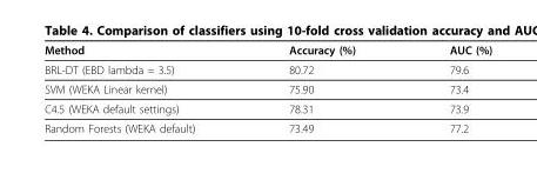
<table><thead><tr><td>Method</td><td>Accuracy (%)</td><td>AUC (%)</td></tr></thead><tbody><tr><td>BRL-DT (EBD lambda = 3.5)</td><td>80.72</td><td>79.6</td></tr><tr><td>SVM (WEKA Linear kernel)</td><td>75.90</td><td>73.4</td></tr><tr><td>C4.5 (WEKA default settings)</td><td>78.31</td><td>73.9</td></tr><tr><td>Random Forests (WEKA default)</td><td>73.49</td><td>77.2</td></tr></tbody></table>